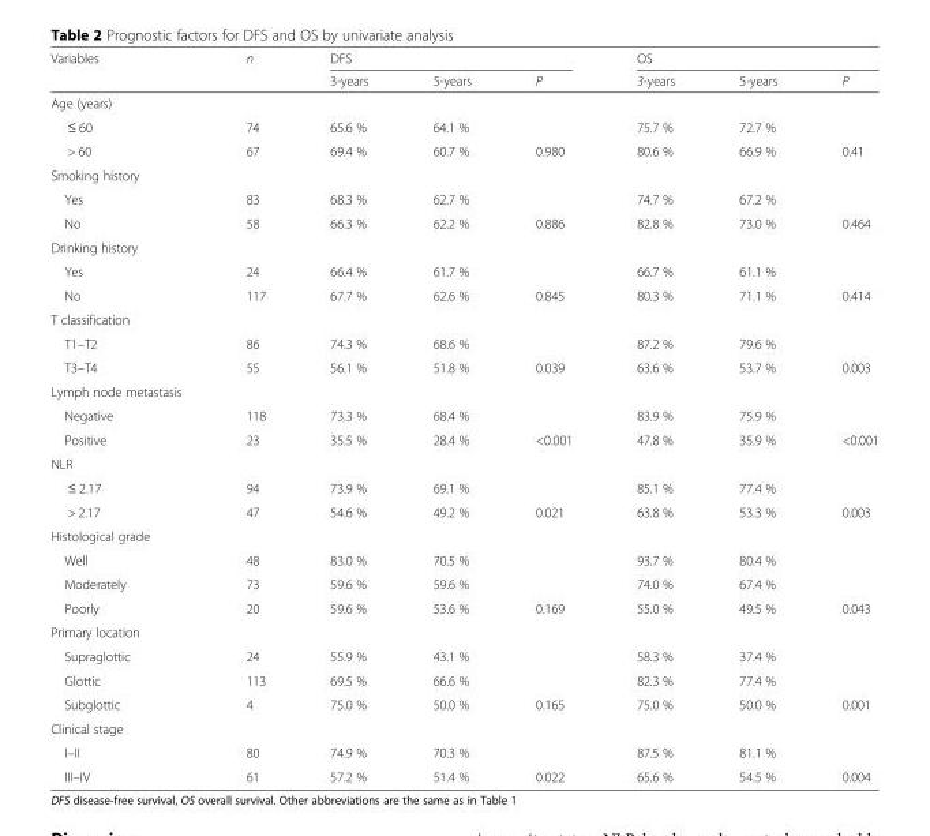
<table><thead><tr><td rowspan="2">Variables</td><td rowspan="2">n</td><td colspan="3">DFS</td><td colspan="3">OS</td></tr><tr><td>3-years</td><td>5-years</td><td>P</td><td>3-years</td><td>5-years</td><td>P</td></tr></thead><tbody><tr><td colspan="8">Age (years)</td></tr><tr><td>≤ 60</td><td>74</td><td>65.6 %</td><td>64.1 %</td><td></td><td>75.7 %</td><td>72.7 %</td><td></td></tr><tr><td>&gt; 60</td><td>67</td><td>69.4 %</td><td>60.7 %</td><td>0.980</td><td>80.6 %</td><td>66.9 %</td><td>0.41</td></tr><tr><td colspan="8">Smoking history</td></tr><tr><td>Yes</td><td>83</td><td>68.3 %</td><td>62.7 %</td><td></td><td>74.7 %</td><td>67.2 %</td><td></td></tr><tr><td>No</td><td>58</td><td>66.3 %</td><td>62.2 %</td><td>0.886</td><td>82.8 %</td><td>73.0 %</td><td>0.464</td></tr><tr><td colspan="8">Drinking history</td></tr><tr><td>Yes</td><td>24</td><td>66.4 %</td><td>61.7 %</td><td></td><td>66.7 %</td><td>61.1 %</td><td></td></tr><tr><td>No</td><td>117</td><td>67.7 %</td><td>62.6 %</td><td>0.845</td><td>80.3 %</td><td>71.1 %</td><td>0.414</td></tr><tr><td colspan="8">T classification</td></tr><tr><td>T1–T2</td><td>86</td><td>74.3 %</td><td>68.6 %</td><td></td><td>87.2 %</td><td>79.6 %</td><td></td></tr><tr><td>T3–T4</td><td>55</td><td>56.1 %</td><td>51.8 %</td><td>0.039</td><td>63.6 %</td><td>53.7 %</td><td>0.003</td></tr><tr><td colspan="8">Lymph node metastasis</td></tr><tr><td>Negative</td><td>118</td><td>73.3 %</td><td>68.4 %</td><td></td><td>83.9 %</td><td>75.9 %</td><td></td></tr><tr><td>Positive</td><td>23</td><td>35.5 %</td><td>28.4 %</td><td>&lt;0.001</td><td>47.8 %</td><td>35.9 %</td><td>&lt;0.001</td></tr><tr><td colspan="8">NLR</td></tr><tr><td>≤ 2.17</td><td>94</td><td>73.9 %</td><td>69.1 %</td><td></td><td>85.1 %</td><td>77.4 %</td><td></td></tr><tr><td>&gt; 2.17</td><td>47</td><td>54.6 %</td><td>49.2 %</td><td>0.021</td><td>63.8 %</td><td>53.3 %</td><td>0.003</td></tr><tr><td colspan="8">Histological grade</td></tr><tr><td>Well</td><td>48</td><td>83.0 %</td><td>70.5 %</td><td></td><td>93.7 %</td><td>80.4 %</td><td></td></tr><tr><td>Moderately</td><td>73</td><td>59.6 %</td><td>59.6 %</td><td></td><td>74.0 %</td><td>67.4 %</td><td></td></tr><tr><td>Poorly</td><td>20</td><td>59.6 %</td><td>53.6 %</td><td>0.169</td><td>55.0 %</td><td>49.5 %</td><td>0.043</td></tr><tr><td colspan="8">Primary location</td></tr><tr><td>Supraglottic</td><td>24</td><td>55.9 %</td><td>43.1 %</td><td></td><td>58.3 %</td><td>37.4 %</td><td></td></tr><tr><td>Glottic</td><td>113</td><td>69.5 %</td><td>66.6 %</td><td></td><td>82.3 %</td><td>77.4 %</td><td></td></tr><tr><td>Subglottic</td><td>4</td><td>75.0 %</td><td>50.0 %</td><td>0.165</td><td>75.0 %</td><td>50.0 %</td><td>0.001</td></tr><tr><td colspan="8">Clinical stage</td></tr><tr><td>I–II</td><td>80</td><td>74.9 %</td><td>70.3 %</td><td></td><td>87.5 %</td><td>81.1 %</td><td></td></tr><tr><td>III–IV</td><td>61</td><td>57.2 %</td><td>51.4 %</td><td>0.022</td><td>65.6 %</td><td>54.5 %</td><td>0.004</td></tr></tbody></table>